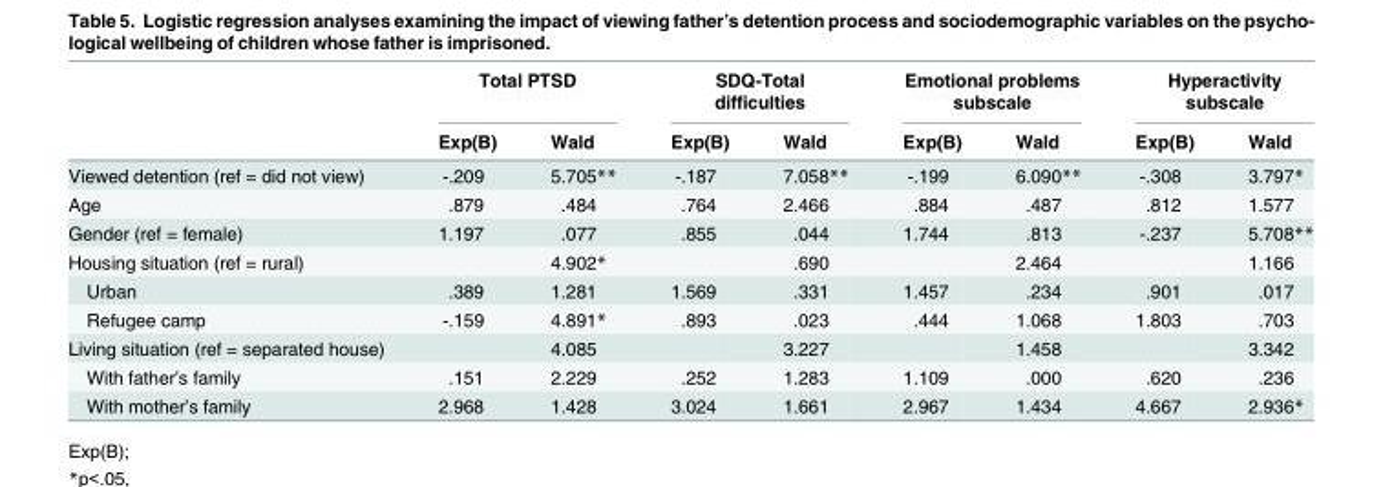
<table><thead><tr><td rowspan="2"></td><td colspan="2">Total PTSD</td><td colspan="2">SDQ-Total difficulties</td><td colspan="2">Emotional problems subscale</td><td colspan="2">Hyperactivity subscale</td></tr><tr><td>Exp(B)</td><td>Wald</td><td>Exp(B)</td><td>Wald</td><td>Exp(B)</td><td>Wald</td><td>Exp(B)</td><td>Wald</td></tr></thead><tbody><tr><td>Viewed detention (ref = did not view)</td><td>-.209</td><td>5.705**</td><td>-.187</td><td>7.058**</td><td>-.199</td><td>6.090**</td><td>-.308</td><td>3.797*</td></tr><tr><td>Age</td><td>.879</td><td>.484</td><td>.764</td><td>2.466</td><td>.884</td><td>.487</td><td>.812</td><td>1.577</td></tr><tr><td>Gender (ref = female)</td><td>1.197</td><td>.077</td><td>.855</td><td>.044</td><td>1.744</td><td>.813</td><td>-.237</td><td>5.708**</td></tr><tr><td>Housing situation (ref = rural)</td><td></td><td>4.902*</td><td></td><td>.690</td><td></td><td>2.464</td><td></td><td>1.166</td></tr><tr><td>Urban</td><td>.389</td><td>1.281</td><td>1.569</td><td>.331</td><td>1.457</td><td>.234</td><td>.901</td><td>.017</td></tr><tr><td>Refugee camp</td><td>-.159</td><td>4.891*</td><td>.893</td><td>.023</td><td>.444</td><td>1.068</td><td>1.803</td><td>.703</td></tr><tr><td>Living situation (ref = separated house)</td><td></td><td>4.085</td><td></td><td>3.227</td><td></td><td>1.458</td><td></td><td>3.342</td></tr><tr><td>With father’s family</td><td>.151</td><td>2.229</td><td>.252</td><td>1.283</td><td>1.109</td><td>.000</td><td>.620</td><td>.236</td></tr><tr><td>With mother’s family</td><td>2.968</td><td>1.428</td><td>3.024</td><td>1.661</td><td>2.967</td><td>1.434</td><td>4.667</td><td>2.936*</td></tr></tbody></table>